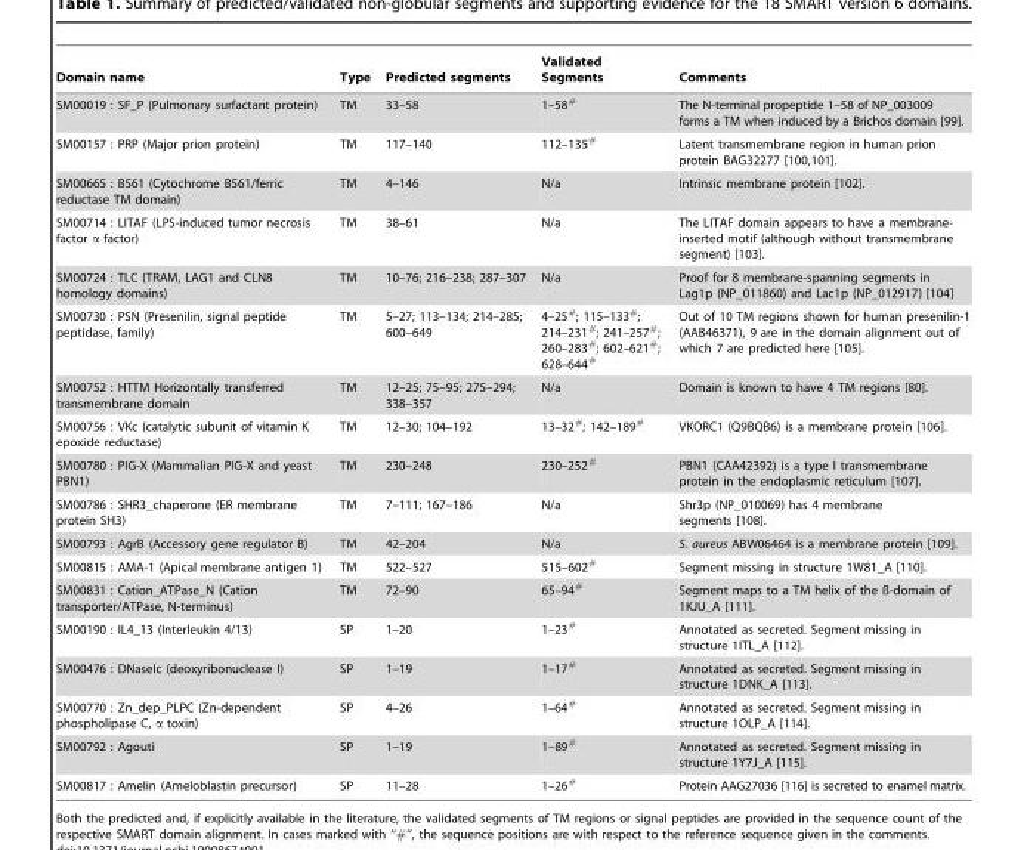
<table><thead><tr><td>Domain name</td><td>Type</td><td>Predicted segments</td><td>Validated Segments</td><td>Comments</td></tr></thead><tbody><tr><td>SM00019 : SF_P (Pulmonary surfactant protein)</td><td>TM</td><td>33–58</td><td>1–58<sup>#</sup></td><td>The N-terminal propeptide 1–58 of NP_003009 forms a TM when induced by a Brichos domain [99].</td></tr><tr><td>SM00157 : PRP (Major prion protein)</td><td>TM</td><td>117–140</td><td>112–135<sup>#</sup></td><td>Latent transmembrane region in human prion protein BAG32277 [100,101].</td></tr><tr><td>SM00665 : B561 (Cytochrome B561/ferric reductase TM domain)</td><td>TM</td><td>4–146</td><td>N/a</td><td>Intrinsic membrane protein [102].</td></tr><tr><td>SM00714 : LITAF (LPS-induced tumor necrosis factor α factor)</td><td>TM</td><td>38–61</td><td>N/a</td><td>The LITAF domain appears to have a membrane- inserted motif (although without transmembrane segment) [103].</td></tr><tr><td>SM00724 : TLC (TRAM, LAG1 and CLN8 homology domains)</td><td>TM</td><td>10–76; 216–238; 287–307</td><td>N/a</td><td>Proof for 8 membrane-spanning segments in Lag1p (NP_011860) and Lac1p (NP_012917) [104]</td></tr><tr><td>SM00730 : PSN (Presenilin, signal peptide peptidase, family)</td><td>TM</td><td>5–27; 113–134; 214–285; 600–649</td><td>4–25<sup>#</sup>; 115–133<sup>#</sup>; 214–231<sup>#</sup>; 241–257<sup>#</sup>; 260–283<sup>#</sup>; 602–621<sup>#</sup>; 628–644<sup>#</sup></td><td>Out of 10 TM regions shown for human presenilin-1 (AAB46371), 9 are in the domain alignment out of which 7 are predicted here [105].</td></tr><tr><td>SM00752 : HTTM Horizontally transferred transmembrane domain</td><td>TM</td><td>12–25; 75–95; 275–294; 338–357</td><td>N/a</td><td>Domain is known to have 4 TM regions [80].</td></tr><tr><td>SM00756 : VKc (catalytic subunit of vitamin K epoxide reductase)</td><td>TM</td><td>12–30; 104–192</td><td>13–32<sup>#</sup>; 142–189<sup>#</sup></td><td>VKORC1 (Q9BQB6) is a membrane protein [106].</td></tr><tr><td>SM00780 : PIG-X (Mammalian PIG-X and yeast PBN1)</td><td>TM</td><td>230–248</td><td>230–252<sup>#</sup></td><td>PBN1 (CAA42392) is a type I transmembrane protein in the endoplasmic reticulum [107].</td></tr><tr><td>SM00786 : SHR3_chaperone (ER membrane protein SH3)</td><td>TM</td><td>7–111; 167–186</td><td>N/a</td><td>Shr3p (NP_010069) has 4 membrane segments [108].</td></tr><tr><td>SM00793 : AgrB (Accessory gene regulator B)</td><td>TM</td><td>42–204</td><td>N/a</td><td>S. aureus ABW06464 is a membrane protein [109].</td></tr><tr><td>SM00815 : AMA-1 (Apical membrane antigen 1)</td><td>TM</td><td>522–527</td><td>515–602<sup>#</sup></td><td>Segment missing in structure 1W81_A [110].</td></tr><tr><td>SM00831 : Cation_ATPase_N (Cation transporter/ATPase, N-terminus)</td><td>TM</td><td>72–90</td><td>65–94<sup>#</sup></td><td>Segment maps to a TM helix of the ß-domain of 1KJU_A [111].</td></tr><tr><td>SM00190 : IL4_13 (Interleukin 4/13)</td><td>SP</td><td>1–20</td><td>1–23<sup>#</sup></td><td>Annotated as secreted. Segment missing in structure 1ITL_A [112].</td></tr><tr><td>SM00476 : DNaseIc (deoxyribonuclease I)</td><td>SP</td><td>1–19</td><td>1–17<sup>#</sup></td><td>Annotated as secreted. Segment missing in structure 1DNK_A [113].</td></tr><tr><td>SM00770 : Zn_dep_PLPC (Zn-dependent phospholipase C, α toxin)</td><td>SP</td><td>4–26</td><td>1–64<sup>#</sup></td><td>Annotated as secreted. Segment missing in structure 1OLP_A [114].</td></tr><tr><td>SM00792 : Agouti</td><td>SP</td><td>1–19</td><td>1–89<sup>#</sup></td><td>Annotated as secreted. Segment missing in structure 1Y7J_A [115].</td></tr><tr><td>SM00817 : Amelin (Ameloblastin precursor)</td><td>SP</td><td>11–28</td><td>1–26<sup>#</sup></td><td>Protein AAG27036 [116] is secreted to enamel matrix.</td></tr></tbody></table>